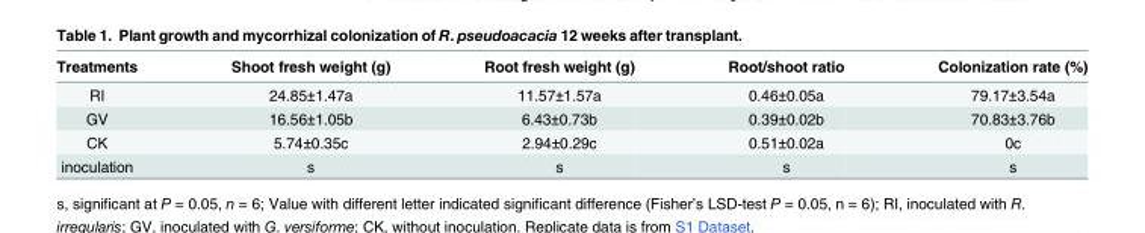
<table><thead><tr><td>Treatments</td><td>Shoot fresh weight (g)</td><td>Root fresh weight (g)</td><td>Root/shoot ratio</td><td>Colonization rate (%)</td></tr></thead><tbody><tr><td>RI</td><td>24.85±1.47a</td><td>11.57±1.57a</td><td>0.46±0.05a</td><td>79.17±3.54a</td></tr><tr><td>GV</td><td>16.56±1.05b</td><td>6.43±0.73b</td><td>0.39±0.02b</td><td>70.83±3.76b</td></tr><tr><td>CK</td><td>5.74±0.35c</td><td>2.94±0.29c</td><td>0.51±0.02a</td><td>0c</td></tr><tr><td>inoculation</td><td>s</td><td>s</td><td>s</td><td>s</td></tr></tbody></table>